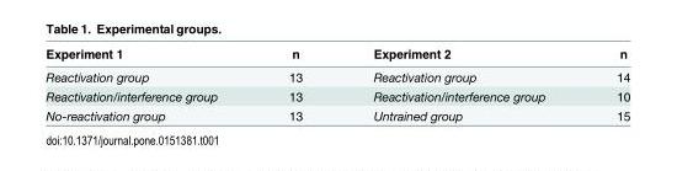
<table><thead><tr><td>Experiment 1</td><td>n</td><td>Experiment 2</td><td>n</td></tr></thead><tbody><tr><td>Reactivation group</td><td>13</td><td>Reactivation group</td><td>14</td></tr><tr><td>Reactivation/interference group</td><td>13</td><td>Reactivation/interference group</td><td>10</td></tr><tr><td>No-reactivation group</td><td>13</td><td>Untrained group</td><td>15</td></tr></tbody></table>